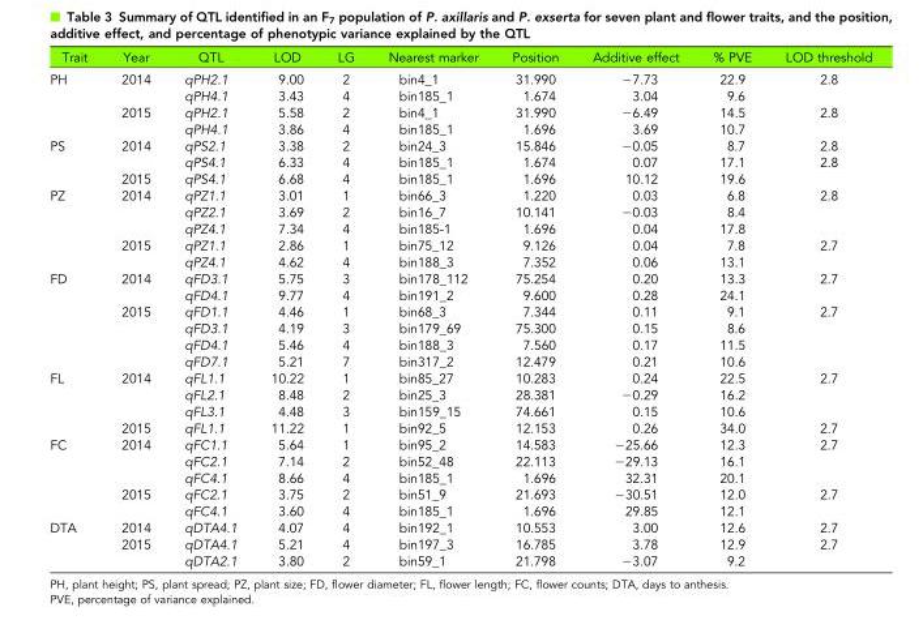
<table><thead><tr><td>Trait</td><td>Year</td><td>QTL</td><td>LOD</td><td>LG</td><td>Nearest marker</td><td>Position</td><td>Additive effect</td><td>% PVE</td><td>LOD threshold</td></tr></thead><tbody><tr><td rowspan="4">PH</td><td>2014</td><td>qPH2.1</td><td>9.00</td><td>2</td><td>bin4_1</td><td>31.990</td><td>−7.73</td><td>22.9</td><td>2.8</td></tr><tr><td></td><td>qPH4.1</td><td>3.43</td><td>4</td><td>bin185_1</td><td>1.674</td><td>3.04</td><td>9.6</td><td></td></tr><tr><td>2015</td><td>qPH2.1</td><td>5.58</td><td>2</td><td>bin4_1</td><td>31.990</td><td>−6.49</td><td>14.5</td><td>2.8</td></tr><tr><td></td><td>qPH4.1</td><td>3.86</td><td>4</td><td>bin185_1</td><td>1.696</td><td>3.69</td><td>10.7</td><td></td></tr><tr><td rowspan="3">PS</td><td>2014</td><td>qPS2.1</td><td>3.38</td><td>2</td><td>bin24_3</td><td>15.846</td><td>−0.05</td><td>8.7</td><td>2.8</td></tr><tr><td></td><td>qPS4.1</td><td>6.33</td><td>4</td><td>bin185_1</td><td>1.674</td><td>0.07</td><td>17.1</td><td>2.8</td></tr><tr><td>2015</td><td>qPS4.1</td><td>6.68</td><td>4</td><td>bin185_1</td><td>1.696</td><td>10.12</td><td>19.6</td><td></td></tr><tr><td rowspan="5">PZ</td><td>2014</td><td>qPZ1.1</td><td>3.01</td><td>1</td><td>bin66_3</td><td>1.220</td><td>0.03</td><td>6.8</td><td>2.8</td></tr><tr><td></td><td>qPZ2.1</td><td>3.69</td><td>2</td><td>bin16_7</td><td>10.141</td><td>−0.03</td><td>8.4</td><td></td></tr><tr><td></td><td>qPZ4.1</td><td>7.34</td><td>4</td><td>bin185-1</td><td>1.696</td><td>0.04</td><td>17.8</td><td></td></tr><tr><td>2015</td><td>qPZ1.1</td><td>2.86</td><td>1</td><td>bin75_12</td><td>9.126</td><td>0.04</td><td>7.8</td><td>2.7</td></tr><tr><td></td><td>qPZ4.1</td><td>4.62</td><td>4</td><td>bin188_3</td><td>7.352</td><td>0.06</td><td>13.1</td><td></td></tr><tr><td rowspan="6">FD</td><td>2014</td><td>qFD3.1</td><td>5.75</td><td>3</td><td>bin178_112</td><td>75.254</td><td>0.20</td><td>13.3</td><td>2.7</td></tr><tr><td></td><td>qFD4.1</td><td>9.77</td><td>4</td><td>bin191_2</td><td>9.600</td><td>0.28</td><td>24.1</td><td></td></tr><tr><td>2015</td><td>qFD1.1</td><td>4.46</td><td>1</td><td>bin68_3</td><td>7.344</td><td>0.11</td><td>9.1</td><td>2.7</td></tr><tr><td></td><td>qFD3.1</td><td>4.19</td><td>3</td><td>bin179_69</td><td>75.300</td><td>0.15</td><td>8.6</td><td></td></tr><tr><td></td><td>qFD4.1</td><td>5.46</td><td>4</td><td>bin188_3</td><td>7.560</td><td>0.17</td><td>11.5</td><td></td></tr><tr><td></td><td>qFD7.1</td><td>5.21</td><td>7</td><td>bin317_2</td><td>12.479</td><td>0.21</td><td>10.6</td><td></td></tr><tr><td rowspan="4">FL</td><td>2014</td><td>qFL1.1</td><td>10.22</td><td>1</td><td>bin85_27</td><td>10.283</td><td>0.24</td><td>22.5</td><td>2.7</td></tr><tr><td></td><td>qFL2.1</td><td>8.48</td><td>2</td><td>bin25_3</td><td>28.381</td><td>−0.29</td><td>16.2</td><td></td></tr><tr><td></td><td>qFL3.1</td><td>4.48</td><td>3</td><td>bin159_15</td><td>74.661</td><td>0.15</td><td>10.6</td><td></td></tr><tr><td>2015</td><td>qFL1.1</td><td>11.22</td><td>1</td><td>bin92_5</td><td>12.153</td><td>0.26</td><td>34.0</td><td>2.7</td></tr><tr><td rowspan="5">FC</td><td>2014</td><td>qFC1.1</td><td>5.64</td><td>1</td><td>bin95_2</td><td>14.583</td><td>−25.66</td><td>12.3</td><td>2.7</td></tr><tr><td></td><td>qFC2.1</td><td>7.14</td><td>2</td><td>bin52_48</td><td>22.113</td><td>−29.13</td><td>16.1</td><td></td></tr><tr><td></td><td>qFC4.1</td><td>8.66</td><td>4</td><td>bin185_1</td><td>1.696</td><td>32.31</td><td>20.1</td><td></td></tr><tr><td>2015</td><td>qFC2.1</td><td>3.75</td><td>2</td><td>bin51_9</td><td>21.693</td><td>−30.51</td><td>12.0</td><td>2.7</td></tr><tr><td></td><td>qFC4.1</td><td>3.60</td><td>4</td><td>bin185_1</td><td>1.696</td><td>29.85</td><td>12.1</td><td></td></tr><tr><td rowspan="3">DTA</td><td>2014</td><td>qDTA4.1</td><td>4.07</td><td>4</td><td>bin192_1</td><td>10.553</td><td>3.00</td><td>12.6</td><td>2.7</td></tr><tr><td>2015</td><td>qDTA4.1</td><td>5.21</td><td>4</td><td>bin197_3</td><td>16.785</td><td>3.78</td><td>12.9</td><td>2.7</td></tr><tr><td></td><td>qDTA2.1</td><td>3.80</td><td>2</td><td>bin59_1</td><td>21.798</td><td>−3.07</td><td>9.2</td><td></td></tr></tbody></table>